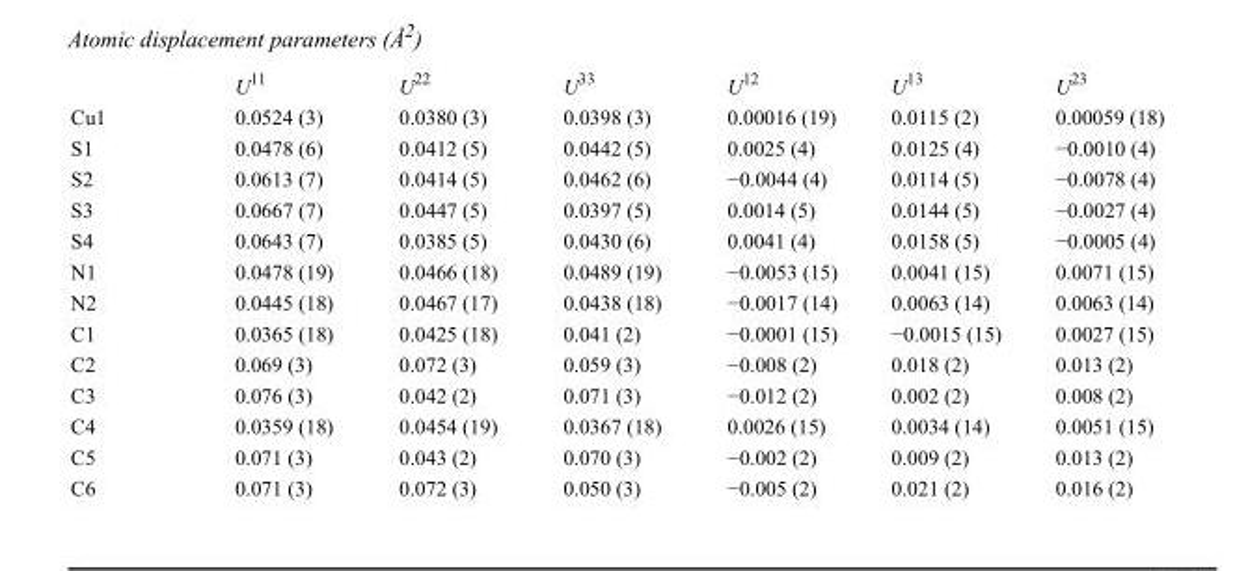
<table><thead><tr><td></td><td>U<sup>11</sup></td><td>U<sup>22</sup></td><td>U<sup>33</sup></td><td>U<sup>12</sup></td><td>U<sup>13</sup></td><td>U<sup>23</sup></td></tr></thead><tbody><tr><td>Cu1</td><td>0.0524 (3)</td><td>0.0380 (3)</td><td>0.0398 (3)</td><td>0.00016 (19)</td><td>0.0115 (2)</td><td>0.00059 (18)</td></tr><tr><td>S1</td><td>0.0478 (6)</td><td>0.0412 (5)</td><td>0.0442 (5)</td><td>0.0025 (4)</td><td>0.0125 (4)</td><td>−0.0010 (4)</td></tr><tr><td>S2</td><td>0.0613 (7)</td><td>0.0414 (5)</td><td>0.0462 (6)</td><td>−0.0044 (4)</td><td>0.0114 (5)</td><td>−0.0078 (4)</td></tr><tr><td>S3</td><td>0.0667 (7)</td><td>0.0447 (5)</td><td>0.0397 (5)</td><td>0.0014 (5)</td><td>0.0144 (5)</td><td>−0.0027 (4)</td></tr><tr><td>S4</td><td>0.0643 (7)</td><td>0.0385 (5)</td><td>0.0430 (6)</td><td>0.0041 (4)</td><td>0.0158 (5)</td><td>−0.0005 (4)</td></tr><tr><td>N1</td><td>0.0478 (19)</td><td>0.0466 (18)</td><td>0.0489 (19)</td><td>−0.0053 (15)</td><td>0.0041 (15)</td><td>0.0071 (15)</td></tr><tr><td>N2</td><td>0.0445 (18)</td><td>0.0467 (17)</td><td>0.0438 (18)</td><td>−0.0017 (14)</td><td>0.0063 (14)</td><td>0.0063 (14)</td></tr><tr><td>C1</td><td>0.0365 (18)</td><td>0.0425 (18)</td><td>0.041 (2)</td><td>−0.0001 (15)</td><td>−0.0015 (15)</td><td>0.0027 (15)</td></tr><tr><td>C2</td><td>0.069 (3)</td><td>0.072 (3)</td><td>0.059 (3)</td><td>−0.008 (2)</td><td>0.018 (2)</td><td>0.013 (2)</td></tr><tr><td>C3</td><td>0.076 (3)</td><td>0.042 (2)</td><td>0.071 (3)</td><td>−0.012 (2)</td><td>0.002 (2)</td><td>0.008 (2)</td></tr><tr><td>C4</td><td>0.0359 (18)</td><td>0.0454 (19)</td><td>0.0367 (18)</td><td>0.0026 (15)</td><td>0.0034 (14)</td><td>0.0051 (15)</td></tr><tr><td>C5</td><td>0.071 (3)</td><td>0.043 (2)</td><td>0.070 (3)</td><td>−0.002 (2)</td><td>0.009 (2)</td><td>0.013 (2)</td></tr><tr><td>C6</td><td>0.071 (3)</td><td>0.072 (3)</td><td>0.050 (3)</td><td>−0.005 (2)</td><td>0.021 (2)</td><td>0.016 (2)</td></tr></tbody></table>